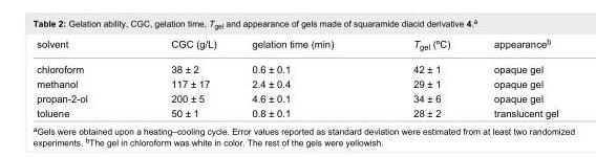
<table><tbody><tr><td>solvent</td><td>CGC (g/L)</td><td>gelation time (min)</td><td>T<sub>gel</sub> (ºC)</td><td>appearance<sup>b</sup></td></tr><tr><td>chloroform</td><td>38 ± 2</td><td>0.6 ± 0.1</td><td>42 ± 1</td><td>opaque gel</td></tr><tr><td>methanol</td><td>117 ± 17</td><td>2.4 ± 0.4</td><td>29 ± 1</td><td>opaque gel</td></tr><tr><td>propan-2-ol</td><td>200 ± 5</td><td>4.6 ± 0.1</td><td>34 ± 6</td><td>opaque gel</td></tr><tr><td>toluene</td><td>50 ± 1</td><td>0.8 ± 0.1</td><td>28 ± 2</td><td>translucent gel</td></tr></tbody></table>